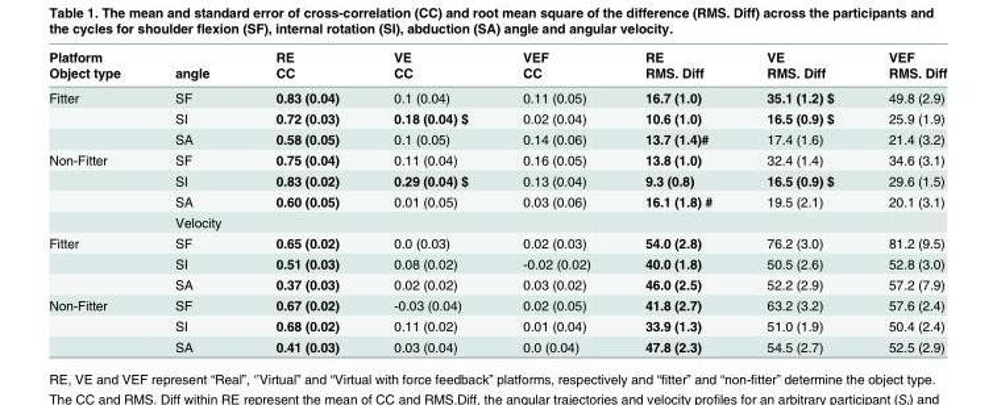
<table><thead><tr><td rowspan="2">Platform Object type</td><td rowspan="2">angle</td><td rowspan="2">RE CC</td><td rowspan="2">VE CC</td><td rowspan="2">VEF CC</td><td rowspan="2">RE RMS. Diff</td><td rowspan="2">VE RMS. Diff</td><td rowspan="2">VEF RMS. Diff</td></tr><tr></tr></thead><tbody><tr><td rowspan="3">Fitter</td><td>SF</td><td>0.83 (0.04)</td><td>0.1 (0.04)</td><td>0.11 (0.05)</td><td>16.7 (1.0)</td><td>35.1 (1.2) $</td><td>49.8 (2.9)</td></tr><tr><td>SI</td><td>0.72 (0.03)</td><td>0.18 (0.04) $</td><td>0.02 (0.04)</td><td>10.6 (1.0)</td><td>16.5 (0.9) $</td><td>25.9 (1.9)</td></tr><tr><td>SA</td><td>0.58 (0.05)</td><td>0.1 (0.05)</td><td>0.14 (0.06)</td><td>13.7 (1.4)#</td><td>17.4 (1.6)</td><td>21.4 (3.2)</td></tr><tr><td rowspan="4">Non-Fitter</td><td>SF</td><td>0.75 (0.04)</td><td>0.11 (0.04)</td><td>0.16 (0.05)</td><td>13.8 (1.0)</td><td>32.4 (1.4)</td><td>34.6 (3.1)</td></tr><tr><td>SI</td><td>0.83 (0.02)</td><td>0.29 (0.04) $</td><td>0.13 (0.04)</td><td>9.3 (0.8)</td><td>16.5 (0.9) $</td><td>29.6 (1.5)</td></tr><tr><td>SA</td><td>0.60 (0.05)</td><td>0.01 (0.05)</td><td>0.03 (0.06)</td><td>16.1 (1.8) #</td><td>19.5 (2.1)</td><td>20.1 (3.1)</td></tr><tr><td>Velocity</td><td></td><td></td><td></td><td></td><td></td><td></td></tr><tr><td rowspan="3">Fitter</td><td>SF</td><td>0.65 (0.02)</td><td>0.0 (0.03)</td><td>0.02 (0.03)</td><td>54.0 (2.8)</td><td>76.2 (3.0)</td><td>81.2 (9.5)</td></tr><tr><td>SI</td><td>0.51 (0.03)</td><td>0.08 (0.02)</td><td>-0.02 (0.02)</td><td>40.0 (1.8)</td><td>50.5 (2.6)</td><td>52.8 (3.0)</td></tr><tr><td>SA</td><td>0.37 (0.03)</td><td>0.02 (0.02)</td><td>0.03 (0.02)</td><td>46.0 (2.5)</td><td>52.2 (2.9)</td><td>57.2 (7.9)</td></tr><tr><td rowspan="3">Non-Fitter</td><td>SF</td><td>0.67 (0.02)</td><td>-0.03 (0.04)</td><td>0.02 (0.05)</td><td>41.8 (2.7)</td><td>63.2 (3.2)</td><td>57.6 (2.4)</td></tr><tr><td>SI</td><td>0.68 (0.02)</td><td>0.11 (0.02)</td><td>0.01 (0.04)</td><td>33.9 (1.3)</td><td>51.0 (1.9)</td><td>50.4 (2.4)</td></tr><tr><td>SA</td><td>0.41 (0.03)</td><td>0.03 (0.04)</td><td>0.0 (0.04)</td><td>47.8 (2.3)</td><td>54.5 (2.7)</td><td>52.5 (2.9)</td></tr></tbody></table>